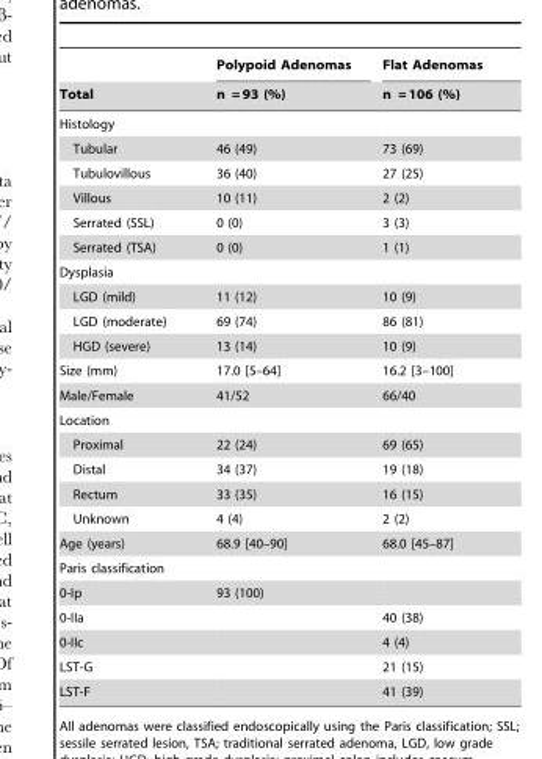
<table><thead><tr><td rowspan="2">Total</td><td rowspan="2">Polypoid Adenomas n = 93 (%)</td><td rowspan="2">Flat Adenomas n = 106 (%)</td></tr><tr></tr></thead><tbody><tr><td colspan="3">Histology</td></tr><tr><td>Tubular</td><td>46 (49)</td><td>73 (69)</td></tr><tr><td>Tubulovillous</td><td>36 (40)</td><td>27 (25)</td></tr><tr><td>Villous</td><td>10 (11)</td><td>2 (2)</td></tr><tr><td>Serrated (SSL)</td><td>0 (0)</td><td>3 (3)</td></tr><tr><td>Serrated (TSA)</td><td>0 (0)</td><td>1 (1)</td></tr><tr><td colspan="3">Dysplasia</td></tr><tr><td>LGD (mild)</td><td>11 (12)</td><td>10 (9)</td></tr><tr><td>LGD (moderate)</td><td>69 (74)</td><td>86 (81)</td></tr><tr><td>HGD (severe)</td><td>13 (14)</td><td>10 (9)</td></tr><tr><td>Size (mm)</td><td>17.0 [5–64]</td><td>16.2 [3–100]</td></tr><tr><td>Male/Female</td><td>41/52</td><td>66/40</td></tr><tr><td colspan="3">Location</td></tr><tr><td>Proximal</td><td>22 (24)</td><td>69 (65)</td></tr><tr><td>Distal</td><td>34 (37)</td><td>19 (18)</td></tr><tr><td>Rectum</td><td>33 (35)</td><td>16 (15)</td></tr><tr><td>Unknown</td><td>4 (4)</td><td>2 (2)</td></tr><tr><td>Age (years)</td><td>68.9 [40–90]</td><td>68.0 [45–87]</td></tr><tr><td colspan="3">Paris classification</td></tr><tr><td>0-Ip</td><td>93 (100)</td><td></td></tr><tr><td>0-IIa</td><td></td><td>40 (38)</td></tr><tr><td>0-IIc</td><td></td><td>4 (4)</td></tr><tr><td>LST-G</td><td></td><td>21 (15)</td></tr><tr><td>LST-F</td><td></td><td>41 (39)</td></tr></tbody></table>